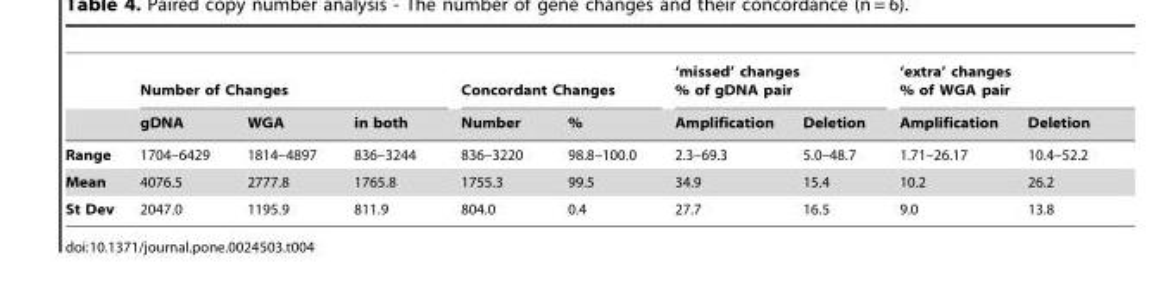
<table><thead><tr><td rowspan="2"></td><td colspan="3">Number of Changes</td><td colspan="2">Concordant Changes</td><td colspan="2">‘missed’ changes % of gDNA pair</td><td colspan="2">‘extra’ changes % of WGA pair</td></tr><tr><td>gDNA</td><td>WGA</td><td>in both</td><td>Number</td><td>%</td><td>Amplification</td><td>Deletion</td><td>Amplification</td><td>Deletion</td></tr></thead><tbody><tr><td>Range</td><td>1704–6429</td><td>1814–4897</td><td>836–3244</td><td>836–3220</td><td>98.8–100.0</td><td>2.3–69.3</td><td>5.0–48.7</td><td>1.71–26.17</td><td>10.4–52.2</td></tr><tr><td>Mean</td><td>4076.5</td><td>2777.8</td><td>1765.8</td><td>1755.3</td><td>99.5</td><td>34.9</td><td>15.4</td><td>10.2</td><td>26.2</td></tr><tr><td>St Dev</td><td>2047.0</td><td>1195.9</td><td>811.9</td><td>804.0</td><td>0.4</td><td>27.7</td><td>16.5</td><td>9.0</td><td>13.8</td></tr></tbody></table>